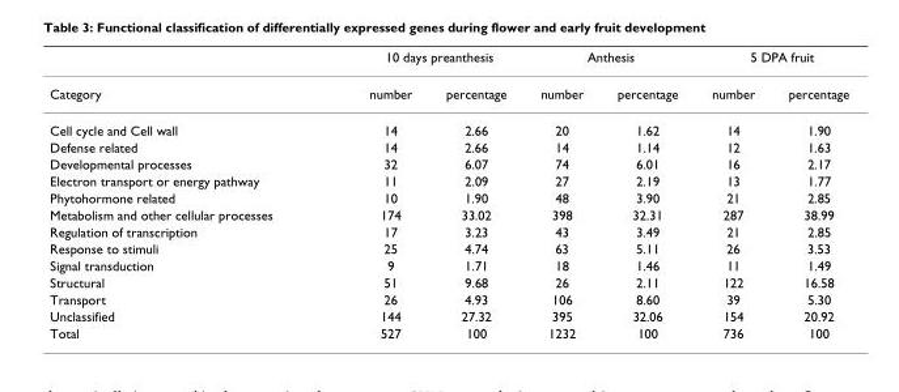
<table><thead><tr><td rowspan="2">Category</td><td colspan="2">10 days preanthesis</td><td colspan="2">Anthesis</td><td colspan="2">5 DPA fruit</td></tr><tr><td>number</td><td>percentage</td><td>number</td><td>percentage</td><td>number</td><td>percentage</td></tr></thead><tbody><tr><td>Cell cycle and Cell wall</td><td>14</td><td>2.66</td><td>20</td><td>1.62</td><td>14</td><td>1.90</td></tr><tr><td>Defense related</td><td>14</td><td>2.66</td><td>14</td><td>1.14</td><td>12</td><td>1.63</td></tr><tr><td>Developmental processes</td><td>32</td><td>6.07</td><td>74</td><td>6.01</td><td>16</td><td>2.17</td></tr><tr><td>Electron transport or energy pathway</td><td>11</td><td>2.09</td><td>27</td><td>2.19</td><td>13</td><td>1.77</td></tr><tr><td>Phytohormone related</td><td>10</td><td>1.90</td><td>48</td><td>3.90</td><td>21</td><td>2.85</td></tr><tr><td>Metabolism and other cellular processes</td><td>174</td><td>33.02</td><td>398</td><td>32.31</td><td>287</td><td>38.99</td></tr><tr><td>Regulation of transcription</td><td>17</td><td>3.23</td><td>43</td><td>3.49</td><td>21</td><td>2.85</td></tr><tr><td>Response to stimuli</td><td>25</td><td>4.74</td><td>63</td><td>5.11</td><td>26</td><td>3.53</td></tr><tr><td>Signal transduction</td><td>9</td><td>1.71</td><td>18</td><td>1.46</td><td>11</td><td>1.49</td></tr><tr><td>Structural</td><td>51</td><td>9.68</td><td>26</td><td>2.11</td><td>122</td><td>16.58</td></tr><tr><td>Transport</td><td>26</td><td>4.93</td><td>106</td><td>8.60</td><td>39</td><td>5.30</td></tr><tr><td>Unclassified</td><td>144</td><td>27.32</td><td>395</td><td>32.06</td><td>154</td><td>20.92</td></tr><tr><td>Total</td><td>527</td><td>100</td><td>1232</td><td>100</td><td>736</td><td>100</td></tr></tbody></table>